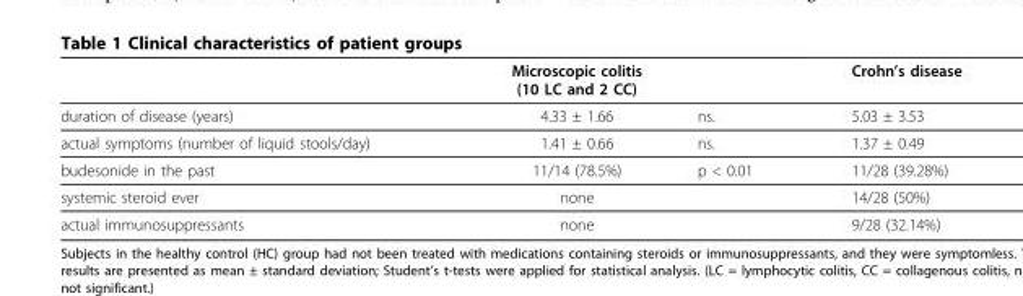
<table><thead><tr><td></td><td>Microscopic colitis (10 LC and 2 CC)</td><td></td><td>Crohn’s disease</td></tr></thead><tbody><tr><td>duration of disease (years)</td><td>4.33 ± 1.66</td><td>ns.</td><td>5.03 ± 3.53</td></tr><tr><td>actual symptoms (number of liquid stools/day)</td><td>1.41 ± 0.66</td><td>ns.</td><td>1.37 ± 0.49</td></tr><tr><td>budesonide in the past</td><td>11/14 (78.5%)</td><td>p &lt; 0.01</td><td>11/28 (39.28%)</td></tr><tr><td>systemic steroid ever</td><td>none</td><td></td><td>14/28 (50%)</td></tr><tr><td>actual immunosuppressants</td><td>none</td><td></td><td>9/28 (32.14%)</td></tr></tbody></table>